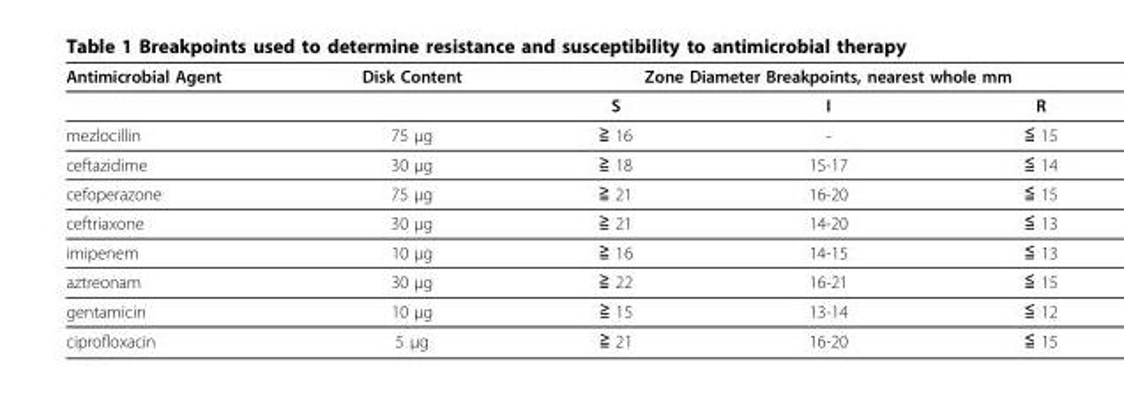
<table><thead><tr><td rowspan="2">Antimicrobial Agent</td><td rowspan="2">Disk Content</td><td colspan="3">Zone Diameter Breakpoints, nearest whole mm</td></tr><tr><td>S</td><td>I</td><td>R</td></tr></thead><tbody><tr><td>mezlocillin</td><td>75 μg</td><td>≧ 16</td><td>-</td><td>≦ 15</td></tr><tr><td>ceftazidime</td><td>30 μg</td><td>≧ 18</td><td>15-17</td><td>≦ 14</td></tr><tr><td>cefoperazone</td><td>75 μg</td><td>≧ 21</td><td>16-20</td><td>≦ 15</td></tr><tr><td>ceftriaxone</td><td>30 μg</td><td>≧ 21</td><td>14-20</td><td>≦ 13</td></tr><tr><td>imipenem</td><td>10 μg</td><td>≧ 16</td><td>14-15</td><td>≦ 13</td></tr><tr><td>aztreonam</td><td>30 μg</td><td>≧ 22</td><td>16-21</td><td>≦ 15</td></tr><tr><td>gentamicin</td><td>10 μg</td><td>≧ 15</td><td>13-14</td><td>≦ 12</td></tr><tr><td>ciprofloxacin</td><td>5 μg</td><td>≧ 21</td><td>16-20</td><td>≦ 15</td></tr></tbody></table>